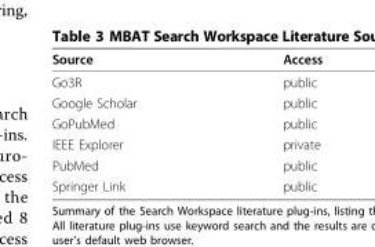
<table><thead><tr><td>Source</td><td>Access</td></tr></thead><tbody><tr><td>Go3R</td><td>public</td></tr><tr><td>Google Scholar</td><td>public</td></tr><tr><td>GoPubMed</td><td>public</td></tr><tr><td>IEEE Explorer</td><td>private</td></tr><tr><td>PubMed</td><td>public</td></tr><tr><td>Springer Link</td><td>public</td></tr></tbody></table>